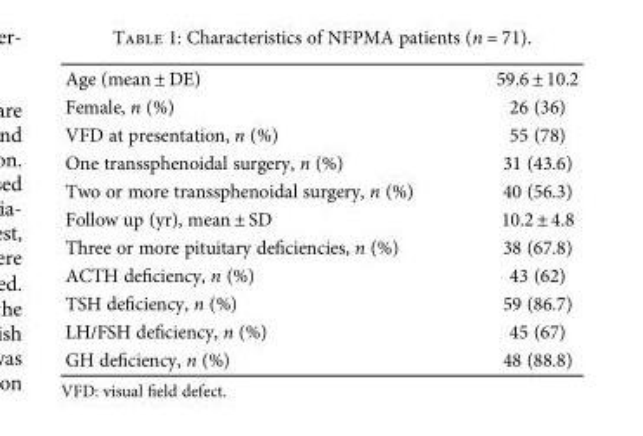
<table><tbody><tr><td>Age (mean ± DE)</td><td>59.6 ± 10.2</td></tr><tr><td>Female, n (%)</td><td>26 (36)</td></tr><tr><td>VFD at presentation, n (%)</td><td>55 (78)</td></tr><tr><td>One transsphenoidal surgery, n (%)</td><td>31 (43.6)</td></tr><tr><td>Two or more transsphenoidal surgery, n (%)</td><td>40 (56.3)</td></tr><tr><td>Follow up (yr), mean ± SD</td><td>10.2 ± 4.8</td></tr><tr><td>Three or more pituitary deficiencies, n (%)</td><td>38 (67.8)</td></tr><tr><td>ACTH deficiency, n (%)</td><td>43 (62)</td></tr><tr><td>TSH deficiency, n (%)</td><td>59 (86.7)</td></tr><tr><td>LH/FSH deficiency, n (%)</td><td>45 (67)</td></tr><tr><td>GH deficiency, n (%)</td><td>48 (88.8)</td></tr></tbody></table>